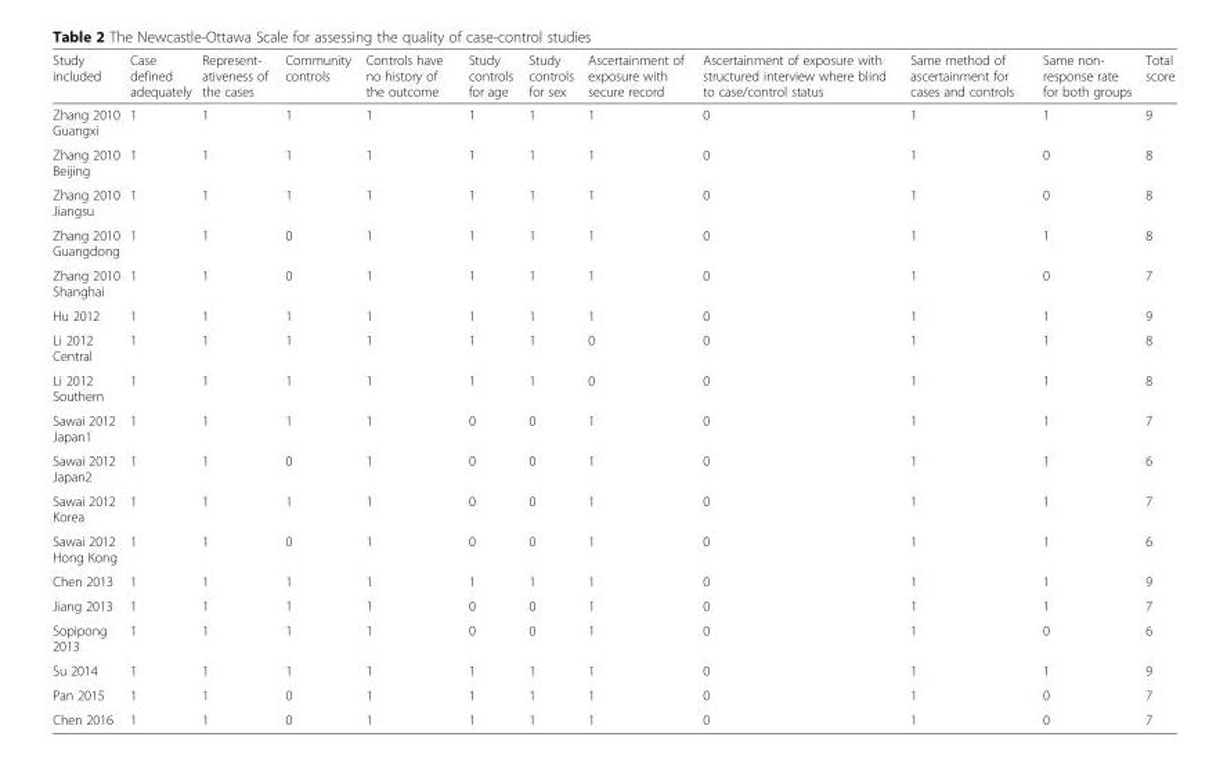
<table><thead><tr><td>Study included</td><td>Case defined adequately</td><td>Represent- ativeness of the cases</td><td>Community controls</td><td>Controls have no history of the outcome</td><td>Study controls for age</td><td>Study controls for sex</td><td>Ascertainment of exposure with secure record</td><td>Ascertainment of exposure with structured interview where blind to case/control status</td><td>Same method of ascertainment for cases and controls</td><td>Same non- response rate for both groups</td><td>Total score</td></tr></thead><tbody><tr><td>Zhang 2010 Guangxi</td><td>1</td><td>1</td><td>1</td><td>1</td><td>1</td><td>1</td><td>1</td><td>0</td><td>1</td><td>1</td><td>9</td></tr><tr><td>Zhang 2010 Beijing</td><td>1</td><td>1</td><td>1</td><td>1</td><td>1</td><td>1</td><td>1</td><td>0</td><td>1</td><td>0</td><td>8</td></tr><tr><td>Zhang 2010 Jiangsu</td><td>1</td><td>1</td><td>1</td><td>1</td><td>1</td><td>1</td><td>1</td><td>0</td><td>1</td><td>0</td><td>8</td></tr><tr><td>Zhang 2010 Guangdong</td><td>1</td><td>1</td><td>0</td><td>1</td><td>1</td><td>1</td><td>1</td><td>0</td><td>1</td><td>1</td><td>8</td></tr><tr><td>Zhang 2010 Shanghai</td><td>1</td><td>1</td><td>0</td><td>1</td><td>1</td><td>1</td><td>1</td><td>0</td><td>1</td><td>0</td><td>7</td></tr><tr><td>Hu 2012</td><td>1</td><td>1</td><td>1</td><td>1</td><td>1</td><td>1</td><td>1</td><td>0</td><td>1</td><td>1</td><td>9</td></tr><tr><td>Li 2012 Central</td><td>1</td><td>1</td><td>1</td><td>1</td><td>1</td><td>1</td><td>0</td><td>0</td><td>1</td><td>1</td><td>8</td></tr><tr><td>Li 2012 Southern</td><td>1</td><td>1</td><td>1</td><td>1</td><td>1</td><td>1</td><td>0</td><td>0</td><td>1</td><td>1</td><td>8</td></tr><tr><td>Sawai 2012 Japan1</td><td>1</td><td>1</td><td>1</td><td>1</td><td>0</td><td>0</td><td>1</td><td>0</td><td>1</td><td>1</td><td>7</td></tr><tr><td>Sawai 2012 Japan2</td><td>1</td><td>1</td><td>0</td><td>1</td><td>0</td><td>0</td><td>1</td><td>0</td><td>1</td><td>1</td><td>6</td></tr><tr><td>Sawai 2012 Korea</td><td>1</td><td>1</td><td>1</td><td>1</td><td>0</td><td>0</td><td>1</td><td>0</td><td>1</td><td>1</td><td>7</td></tr><tr><td>Sawai 2012 Hong Kong</td><td>1</td><td>1</td><td>0</td><td>1</td><td>0</td><td>0</td><td>1</td><td>0</td><td>1</td><td>1</td><td>6</td></tr><tr><td>Chen 2013</td><td>1</td><td>1</td><td>1</td><td>1</td><td>1</td><td>1</td><td>1</td><td>0</td><td>1</td><td>1</td><td>9</td></tr><tr><td>Jiang 2013</td><td>1</td><td>1</td><td>1</td><td>1</td><td>0</td><td>0</td><td>1</td><td>0</td><td>1</td><td>1</td><td>7</td></tr><tr><td>Sopipong 2013</td><td>1</td><td>1</td><td>1</td><td>1</td><td>0</td><td>0</td><td>1</td><td>0</td><td>1</td><td>0</td><td>6</td></tr><tr><td>Su 2014</td><td>1</td><td>1</td><td>1</td><td>1</td><td>1</td><td>1</td><td>1</td><td>0</td><td>1</td><td>1</td><td>9</td></tr><tr><td>Pan 2015</td><td>1</td><td>1</td><td>0</td><td>1</td><td>1</td><td>1</td><td>1</td><td>0</td><td>1</td><td>0</td><td>7</td></tr><tr><td>Chen 2016</td><td>1</td><td>1</td><td>0</td><td>1</td><td>1</td><td>1</td><td>1</td><td>0</td><td>1</td><td>0</td><td>7</td></tr></tbody></table>